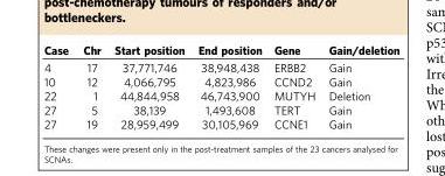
<table><thead><tr><td>Case</td><td>Chr</td><td>Start position</td><td>End position</td><td>Gene</td><td>Gain/deletion</td></tr></thead><tbody><tr><td>4</td><td>17</td><td>37,771,746</td><td>38,948,438</td><td>ERBB2</td><td>Gain</td></tr><tr><td>10</td><td>12</td><td>4,066,795</td><td>4,823,986</td><td>CCND2</td><td>Gain</td></tr><tr><td>22</td><td>1</td><td>44,844,958</td><td>46,743,900</td><td>MUTYH</td><td>Deletion</td></tr><tr><td>27</td><td>5</td><td>38,139</td><td>1,493,608</td><td>TERT</td><td>Gain</td></tr><tr><td>27</td><td>19</td><td>28,959,499</td><td>30,105,969</td><td>CCNE1</td><td>Gain</td></tr></tbody></table>